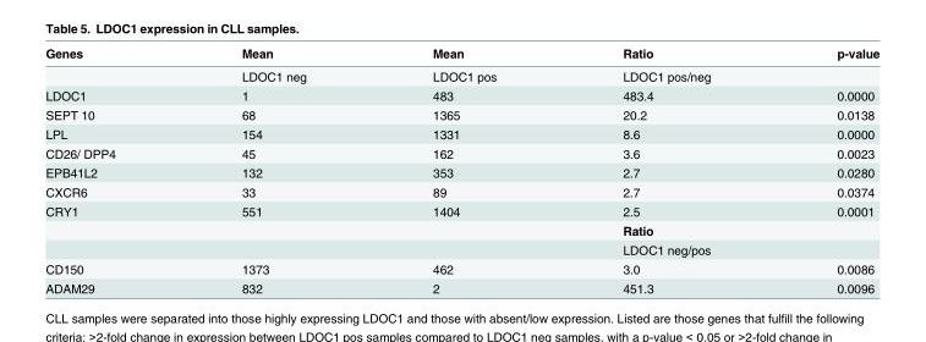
<table><thead><tr><td>Genes</td><td>Mean</td><td>Mean</td><td>Ratio</td><td>p-value</td></tr></thead><tbody><tr><td></td><td>LDOC1 neg</td><td>LDOC1 pos</td><td>LDOC1 pos/neg</td><td></td></tr><tr><td>LDOC1</td><td>1</td><td>483</td><td>483.4</td><td>0.0000</td></tr><tr><td>SEPT 10</td><td>68</td><td>1365</td><td>20.2</td><td>0.0138</td></tr><tr><td>LPL</td><td>154</td><td>1331</td><td>8.6</td><td>0.0000</td></tr><tr><td>CD26/ DPP4</td><td>45</td><td>162</td><td>3.6</td><td>0.0023</td></tr><tr><td>EPB41L2</td><td>132</td><td>353</td><td>2.7</td><td>0.0280</td></tr><tr><td>CXCR6</td><td>33</td><td>89</td><td>2.7</td><td>0.0374</td></tr><tr><td rowspan="3">CRY1</td><td>551</td><td>1404</td><td>2.5</td><td>0.0001</td></tr><tr><td></td><td></td><td>Ratio</td><td></td></tr><tr><td></td><td></td><td>LDOC1 neg/pos</td><td></td></tr><tr><td>CD150</td><td>1373</td><td>462</td><td>3.0</td><td>0.0086</td></tr><tr><td>ADAM29</td><td>832</td><td>2</td><td>451.3</td><td>0.0096</td></tr></tbody></table>